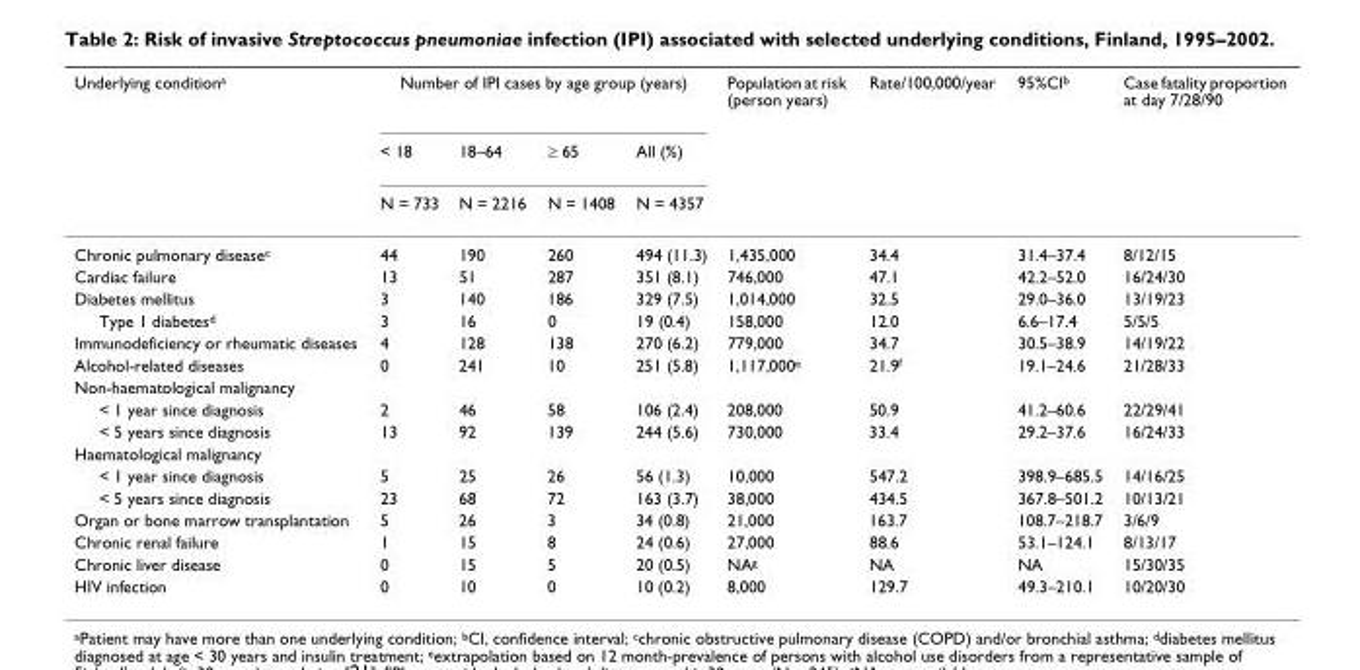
<table><thead><tr><td rowspan="3">Underlying condition<sup>a</sup></td><td colspan="4">Number of IPI cases by age group (years)</td><td rowspan="3">Population at risk (person years)</td><td rowspan="3">Rate/100,000/year</td><td rowspan="3">95%CI<sup>b</sup></td><td rowspan="3">Case fatality proportion at day 7/28/90</td></tr><tr><td rowspan="2">&lt; 18 N = 733</td><td rowspan="2">18–64 N = 2216</td><td rowspan="2">≥ 65 N = 1408</td><td rowspan="2">All (%) N = 4357</td></tr><tr></tr></thead><tbody><tr><td>Chronic pulmonary disease<sup>c</sup></td><td>44</td><td>190</td><td>260</td><td>494 (11.3)</td><td>1,435,000</td><td>34.4</td><td>31.4–37.4</td><td>8/12/15</td></tr><tr><td>Cardiac failure</td><td>13</td><td>51</td><td>287</td><td>351 (8.1)</td><td>746,000</td><td>47.1</td><td>42.2–52.0</td><td>16/24/30</td></tr><tr><td>Diabetes mellitus</td><td>3</td><td>140</td><td>186</td><td>329 (7.5)</td><td>1,014,000</td><td>32.5</td><td>29.0–36.0</td><td>13/19/23</td></tr><tr><td>Type 1 diabetes<sup>d</sup></td><td>3</td><td>16</td><td>0</td><td>19 (0.4)</td><td>158,000</td><td>12.0</td><td>6.6–17.4</td><td>5/5/5</td></tr><tr><td>Immunodeficiency or rheumatic diseases</td><td>4</td><td>128</td><td>138</td><td>270 (6.2)</td><td>779,000</td><td>34.7</td><td>30.5–38.9</td><td>14/19/22</td></tr><tr><td>Alcohol-related diseases</td><td>0</td><td>241</td><td>10</td><td>251 (5.8)</td><td>1,117,000<sup>e</sup></td><td>21.9<sup>f</sup></td><td>19.1–24.6</td><td>21/28/33</td></tr><tr><td colspan="9">Non-haematological malignancy</td></tr><tr><td>&lt; 1 year since diagnosis</td><td>2</td><td>46</td><td>58</td><td>106 (2.4)</td><td>208,000</td><td>50.9</td><td>41.2–60.6</td><td>22/29/41</td></tr><tr><td>&lt; 5 years since diagnosis</td><td>13</td><td>92</td><td>139</td><td>244 (5.6)</td><td>730,000</td><td>33.4</td><td>29.2–37.6</td><td>16/24/33</td></tr><tr><td colspan="9">Haematological malignancy</td></tr><tr><td>&lt; 1 year since diagnosis</td><td>5</td><td>25</td><td>26</td><td>56 (1.3)</td><td>10,000</td><td>547.2</td><td>398.9–685.5</td><td>14/16/25</td></tr><tr><td>&lt; 5 years since diagnosis</td><td>23</td><td>68</td><td>72</td><td>163 (3.7)</td><td>38,000</td><td>434.5</td><td>367.8–501.2</td><td>10/13/21</td></tr><tr><td>Organ or bone marrow transplantation</td><td>5</td><td>26</td><td>3</td><td>34 (0.8)</td><td>21,000</td><td>163.7</td><td>108.7–218.7</td><td>3/6/9</td></tr><tr><td>Chronic renal failure</td><td>1</td><td>15</td><td>8</td><td>24 (0.6)</td><td>27,000</td><td>88.6</td><td>53.1–124.1</td><td>8/13/17</td></tr><tr><td>Chronic liver disease</td><td>0</td><td>15</td><td>5</td><td>20 (0.5)</td><td>NA<sup>g</sup></td><td>NA</td><td>NA</td><td>15/30/35</td></tr><tr><td>HIV infection</td><td>0</td><td>10</td><td>0</td><td>10 (0.2)</td><td>8,000</td><td>129.7</td><td>49.3–210.1</td><td>10/20/30</td></tr></tbody></table>